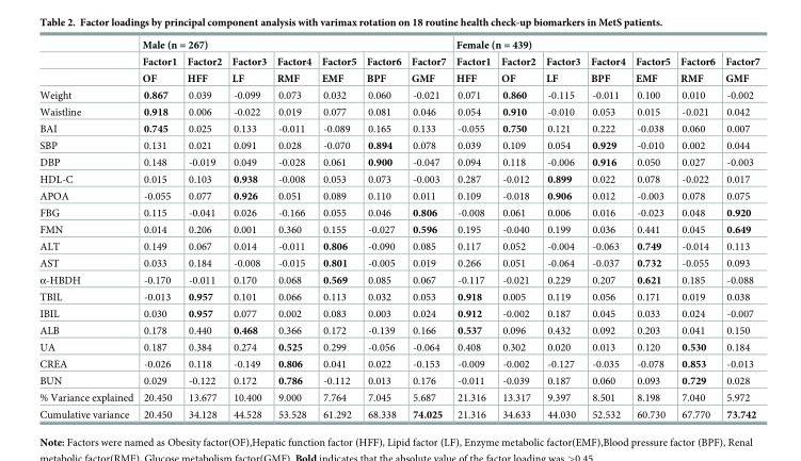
<table><thead><tr><td rowspan="3"></td><td colspan="7">Male (n = 267)</td><td colspan="7">Female (n = 439)</td></tr><tr><td rowspan="2">Factor1 OF</td><td rowspan="2">Factor2 HFF</td><td rowspan="2">Factor3 LF</td><td rowspan="2">Factor4 RMF</td><td rowspan="2">Factor5 EMF</td><td rowspan="2">Factor6 BPF</td><td rowspan="2">Factor7 GMF</td><td rowspan="2">Factor1 HFF</td><td rowspan="2">Factor2 OF</td><td rowspan="2">Factor3 LF</td><td rowspan="2">Factor4 BPF</td><td rowspan="2">Factor5 EMF</td><td rowspan="2">Factor6 RMF</td><td rowspan="2">Factor7 GMF</td></tr><tr></tr></thead><tbody><tr><td>Weight</td><td>0.867</td><td>0.039</td><td>-0.099</td><td>0.073</td><td>0.032</td><td>0.060</td><td>-0.021</td><td>0.071</td><td>0.860</td><td>-0.115</td><td>-0.011</td><td>0.100</td><td>0.010</td><td>-0.002</td></tr><tr><td>Waistline</td><td>0.918</td><td>0.006</td><td>-0.022</td><td>0.019</td><td>0.077</td><td>0.081</td><td>0.046</td><td>0.054</td><td>0.910</td><td>-0.010</td><td>0.053</td><td>0.015</td><td>-0.021</td><td>0.042</td></tr><tr><td>BAI</td><td>0.745</td><td>0.025</td><td>0.133</td><td>-0.011</td><td>-0.089</td><td>0.165</td><td>0.133</td><td>-0.055</td><td>0.750</td><td>0.121</td><td>0.222</td><td>-0.038</td><td>0.060</td><td>0.007</td></tr><tr><td>SBP</td><td>0.131</td><td>0.021</td><td>0.091</td><td>0.028</td><td>-0.070</td><td>0.894</td><td>0.078</td><td>0.039</td><td>0.109</td><td>0.054</td><td>0.929</td><td>-0.010</td><td>0.002</td><td>0.044</td></tr><tr><td>DBP</td><td>0.148</td><td>-0.019</td><td>0.049</td><td>-0.028</td><td>0.061</td><td>0.900</td><td>-0.047</td><td>0.094</td><td>0.118</td><td>-0.006</td><td>0.916</td><td>0.050</td><td>0.027</td><td>-0.003</td></tr><tr><td>HDL-C</td><td>0.015</td><td>0.103</td><td>0.938</td><td>-0.008</td><td>0.053</td><td>0.073</td><td>-0.003</td><td>0.287</td><td>-0.012</td><td>0.899</td><td>0.022</td><td>0.078</td><td>-0.022</td><td>0.017</td></tr><tr><td>APOA</td><td>-0.055</td><td>0.077</td><td>0.926</td><td>0.051</td><td>0.089</td><td>0.110</td><td>0.011</td><td>0.109</td><td>-0.018</td><td>0.906</td><td>0.012</td><td>-0.003</td><td>0.078</td><td>0.075</td></tr><tr><td>FBG</td><td>0.115</td><td>-0.041</td><td>0.026</td><td>-0.166</td><td>0.055</td><td>0.046</td><td>0.806</td><td>-0.008</td><td>0.061</td><td>0.006</td><td>0.016</td><td>-0.023</td><td>0.048</td><td>0.920</td></tr><tr><td>FMN</td><td>0.014</td><td>0.206</td><td>0.001</td><td>0.360</td><td>0.155</td><td>-0.027</td><td>0.596</td><td>0.195</td><td>-0.040</td><td>0.199</td><td>0.036</td><td>0.441</td><td>0.045</td><td>0.649</td></tr><tr><td>ALT</td><td>0.149</td><td>0.067</td><td>0.014</td><td>-0.011</td><td>0.806</td><td>-0.090</td><td>0.085</td><td>0.117</td><td>0.052</td><td>-0.004</td><td>-0.063</td><td>0.749</td><td>-0.014</td><td>0.113</td></tr><tr><td>AST</td><td>0.033</td><td>0.184</td><td>-0.008</td><td>-0.015</td><td>0.801</td><td>-0.005</td><td>0.019</td><td>0.266</td><td>0.051</td><td>-0.064</td><td>-0.037</td><td>0.732</td><td>-0.055</td><td>0.093</td></tr><tr><td>α-HBDH</td><td>-0.170</td><td>-0.011</td><td>0.170</td><td>0.068</td><td>0.569</td><td>0.085</td><td>0.067</td><td>-0.117</td><td>-0.021</td><td>0.229</td><td>0.207</td><td>0.621</td><td>0.185</td><td>-0.088</td></tr><tr><td>TBIL</td><td>-0.013</td><td>0.957</td><td>0.101</td><td>0.066</td><td>0.113</td><td>0.032</td><td>0.053</td><td>0.918</td><td>0.005</td><td>0.119</td><td>0.056</td><td>0.171</td><td>0.019</td><td>0.038</td></tr><tr><td>IBIL</td><td>0.030</td><td>0.957</td><td>0.077</td><td>0.002</td><td>0.083</td><td>0.003</td><td>0.024</td><td>0.912</td><td>-0.002</td><td>0.187</td><td>0.045</td><td>0.033</td><td>0.024</td><td>-0.007</td></tr><tr><td>ALB</td><td>0.178</td><td>0.440</td><td>0.468</td><td>0.366</td><td>0.172</td><td>-0.139</td><td>0.166</td><td>0.537</td><td>0.096</td><td>0.432</td><td>0.092</td><td>0.203</td><td>0.041</td><td>0.150</td></tr><tr><td>UA</td><td>0.187</td><td>0.384</td><td>0.274</td><td>0.525</td><td>0.299</td><td>-0.056</td><td>-0.064</td><td>0.408</td><td>0.302</td><td>0.020</td><td>0.013</td><td>0.120</td><td>0.530</td><td>0.184</td></tr><tr><td>CREA</td><td>-0.026</td><td>0.118</td><td>-0.149</td><td>0.806</td><td>0.041</td><td>0.022</td><td>-0.153</td><td>-0.009</td><td>-0.002</td><td>-0.127</td><td>-0.035</td><td>-0.078</td><td>0.853</td><td>-0.013</td></tr><tr><td>BUN</td><td>0.029</td><td>-0.122</td><td>0.172</td><td>0.786</td><td>-0.112</td><td>0.013</td><td>0.176</td><td>-0.011</td><td>-0.039</td><td>0.187</td><td>0.060</td><td>0.093</td><td>0.729</td><td>0.028</td></tr><tr><td>% Variance explained</td><td>20.450</td><td>13.677</td><td>10.400</td><td>9.000</td><td>7.764</td><td>7.045</td><td>5.687</td><td>21.316</td><td>13.317</td><td>9.397</td><td>8.501</td><td>8.198</td><td>7.040</td><td>5.972</td></tr><tr><td>Cumulative variance</td><td>20.450</td><td>34.128</td><td>44.528</td><td>53.528</td><td>61.292</td><td>68.338</td><td>74.025</td><td>21.316</td><td>34.633</td><td>44.030</td><td>52.532</td><td>60.730</td><td>67.770</td><td>73.742</td></tr></tbody></table>